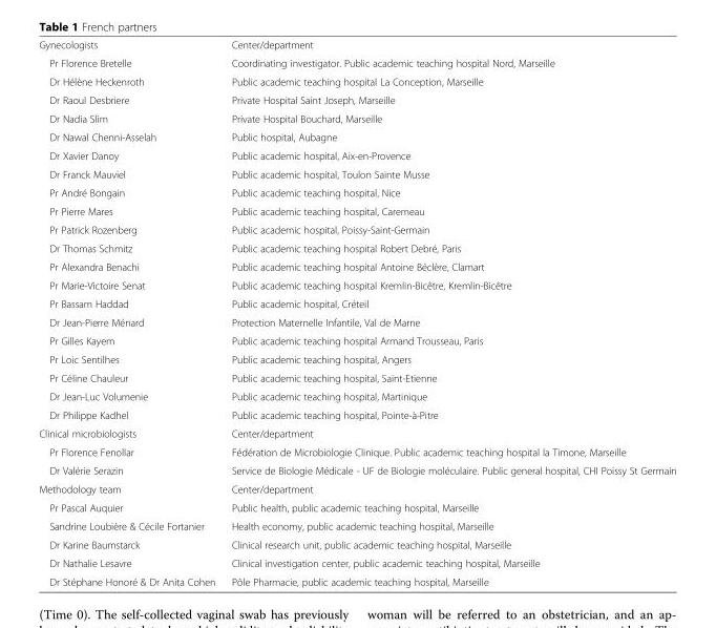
<table><tbody><tr><td>Gynecologists</td><td>Center/department</td></tr><tr><td>Pr Florence Bretelle</td><td>Coordinating investigator. Public academic teaching hospital Nord, Marseille</td></tr><tr><td>Dr Hélène Heckenroth</td><td>Public academic teaching hospital La Conception, Marseille</td></tr><tr><td>Dr Raoul Desbriere</td><td>Private Hospital Saint Joseph, Marseille</td></tr><tr><td>Dr Nadia Slim</td><td>Private Hospital Bouchard, Marseille</td></tr><tr><td>Dr Nawal Chenni-Asselah</td><td>Public hospital, Aubagne</td></tr><tr><td>Dr Xavier Danoy</td><td>Public academic hospital, Aix-en-Provence</td></tr><tr><td>Dr Franck Mauviel</td><td>Public academic hospital, Toulon Sainte Musse</td></tr><tr><td>Pr André Bongain</td><td>Public academic teaching hospital, Nice</td></tr><tr><td>Pr Pierre Mares</td><td>Public academic teaching hospital, Caremeau</td></tr><tr><td>Pr Patrick Rozenberg</td><td>Public academic hospital, Poissy-Saint-Germain</td></tr><tr><td>Dr Thomas Schmitz</td><td>Public academic teaching hospital Robert Debré, Paris</td></tr><tr><td>Pr Alexandra Benachi</td><td>Public academic teaching hospital Antoine Béclère, Clamart</td></tr><tr><td>Pr Marie-Victoire Senat</td><td>Public academic teaching hospital Kremlin-Bicêtre, Kremlin-Bicêtre</td></tr><tr><td>Pr Bassam Haddad</td><td>Public academic hospital, Créteil</td></tr><tr><td>Dr Jean-Pierre Ménard</td><td>Protection Maternelle Infantile, Val de Marne</td></tr><tr><td>Pr Gilles Kayem</td><td>Public academic teaching hospital Armand Trousseau, Paris</td></tr><tr><td>Pr Loic Sentilhes</td><td>Public academic teaching hospital, Angers</td></tr><tr><td>Pr Céline Chauleur</td><td>Public academic teaching hospital, Saint-Etienne</td></tr><tr><td>Dr Jean-Luc Volumenie</td><td>Public academic teaching hospital, Martinique</td></tr><tr><td>Dr Philippe Kadhel</td><td>Public academic teaching hospital, Pointe-à-Pitre</td></tr><tr><td>Clinical microbiologists</td><td>Center/department</td></tr><tr><td>Pr Florence Fenollar</td><td>Fédération de Microbiologie Clinique. Public academic teaching hospital la Timone, Marseille</td></tr><tr><td>Dr Valérie Serazin</td><td>Service de Biologie Médicale - UF de Biologie moléculaire. Public general hospital, CHI Poissy St Germain</td></tr><tr><td>Methodology team</td><td>Center/department</td></tr><tr><td>Pr Pascal Auquier</td><td>Public health, public academic teaching hospital, Marseille</td></tr><tr><td>Sandrine Loubière &amp; Cécile Fortanier</td><td>Health economy, public academic teaching hospital, Marseille</td></tr><tr><td>Dr Karine Baumstarck</td><td>Clinical research unit, public academic teaching hospital, Marseille</td></tr><tr><td>Dr Nathalie Lesavre</td><td>Clinical investigation center, public academic teaching hospital, Marseille</td></tr><tr><td>Dr Stéphane Honoré &amp; Dr Anita Cohen</td><td>Pôle Pharmacie, public academic teaching hospital, Marseille</td></tr></tbody></table>